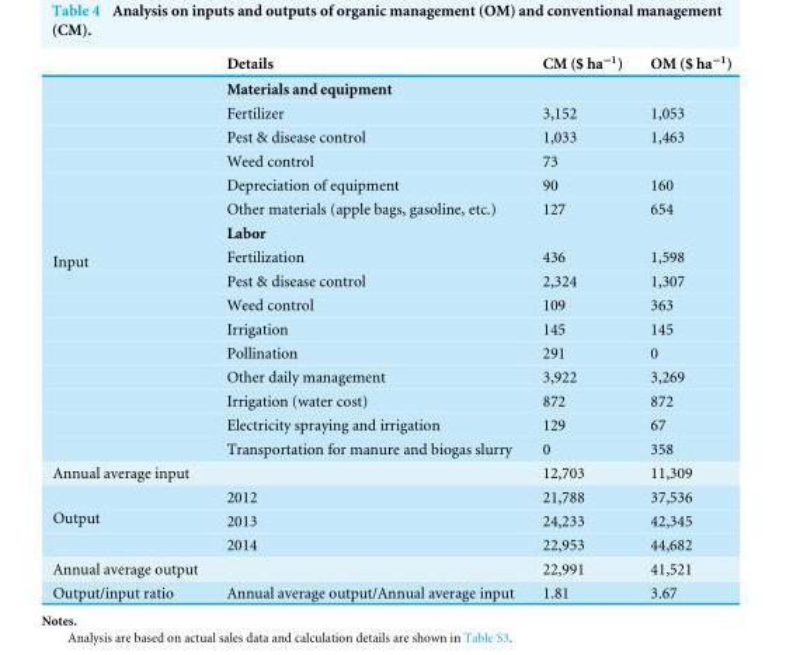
<table><thead><tr><td></td><td>Details</td><td>CM ($ ha<sup>−1</sup>)</td><td>OM ($ ha<sup>−1</sup>)</td></tr></thead><tbody><tr><td rowspan="16">Input</td><td>Materials and equipment</td><td></td><td></td></tr><tr><td>Fertilizer</td><td>3,152</td><td>1,053</td></tr><tr><td>Pest &amp; disease control</td><td>1,033</td><td>1,463</td></tr><tr><td>Weed control</td><td>73</td><td></td></tr><tr><td>Depreciation of equipment</td><td>90</td><td>160</td></tr><tr><td>Other materials (apple bags, gasoline, etc.)</td><td>127</td><td>654</td></tr><tr><td>Labor</td><td></td><td></td></tr><tr><td>Fertilization</td><td>436</td><td>1,598</td></tr><tr><td>Pest &amp; disease control</td><td>2,324</td><td>1,307</td></tr><tr><td>Weed control</td><td>109</td><td>363</td></tr><tr><td>Irrigation</td><td>145</td><td>145</td></tr><tr><td>Pollination</td><td>291</td><td>0</td></tr><tr><td>Other daily management</td><td>3,922</td><td>3,269</td></tr><tr><td>Irrigation (water cost)</td><td>872</td><td>872</td></tr><tr><td>Electricity spraying and irrigation</td><td>129</td><td>67</td></tr><tr><td>Transportation for manure and biogas slurry</td><td>0</td><td>358</td></tr><tr><td>Annual average input</td><td></td><td>12,703</td><td>11,309</td></tr><tr><td rowspan="3">Output</td><td>2012</td><td>21,788</td><td>37,536</td></tr><tr><td>2013</td><td>24,233</td><td>42,345</td></tr><tr><td>2014</td><td>22,953</td><td>44,682</td></tr><tr><td>Annual average output</td><td></td><td>22,991</td><td>41,521</td></tr><tr><td>Output/input ratio</td><td>Annual average output/Annual average input</td><td>1.81</td><td>3.67</td></tr></tbody></table>